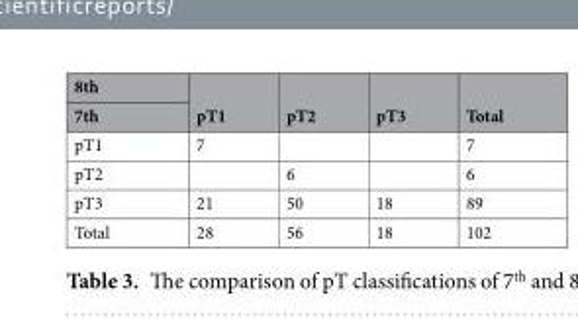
<table><thead><tr><td rowspan="2">8th 7th</td><td rowspan="2">pT1</td><td rowspan="2">pT2</td><td rowspan="2">pT3</td><td rowspan="2">Total</td></tr><tr></tr></thead><tbody><tr><td>pT1</td><td>7</td><td></td><td></td><td>7</td></tr><tr><td>pT2</td><td></td><td>6</td><td></td><td>6</td></tr><tr><td>pT3</td><td>21</td><td>50</td><td>18</td><td>89</td></tr><tr><td>Total</td><td>28</td><td>56</td><td>18</td><td>102</td></tr></tbody></table>